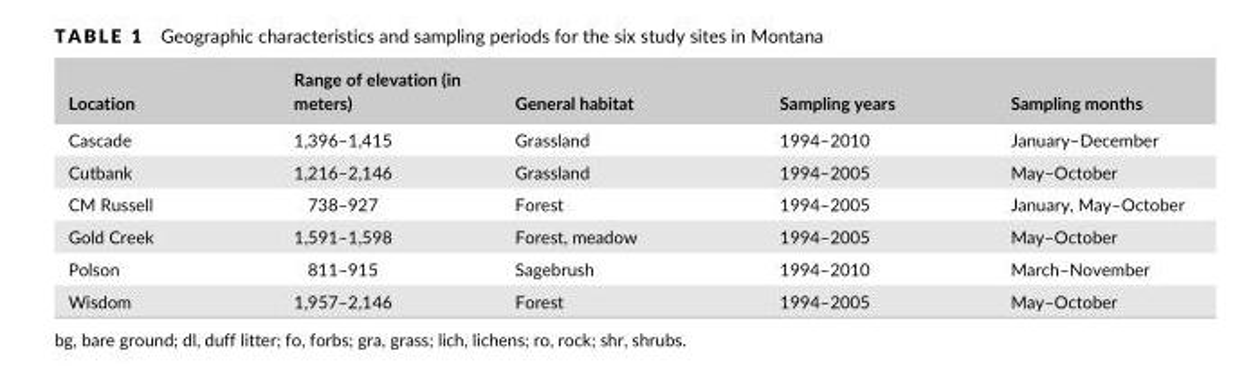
<table><thead><tr><td>Location</td><td>Range of elevation (in meters)</td><td>General habitat</td><td>Sampling years</td><td>Sampling months</td></tr></thead><tbody><tr><td>Cascade</td><td>1,396–1,415</td><td>Grassland</td><td>1994–2010</td><td>January–December</td></tr><tr><td>Cutbank</td><td>1,216–2,146</td><td>Grassland</td><td>1994–2005</td><td>May–October</td></tr><tr><td>CM Russell</td><td>738–927</td><td>Forest</td><td>1994–2005</td><td>January, May–October</td></tr><tr><td>Gold Creek</td><td>1,591–1,598</td><td>Forest, meadow</td><td>1994–2005</td><td>May–October</td></tr><tr><td>Polson</td><td>811–915</td><td>Sagebrush</td><td>1994–2010</td><td>March–November</td></tr><tr><td>Wisdom</td><td>1,957–2,146</td><td>Forest</td><td>1994–2005</td><td>May–October</td></tr></tbody></table>